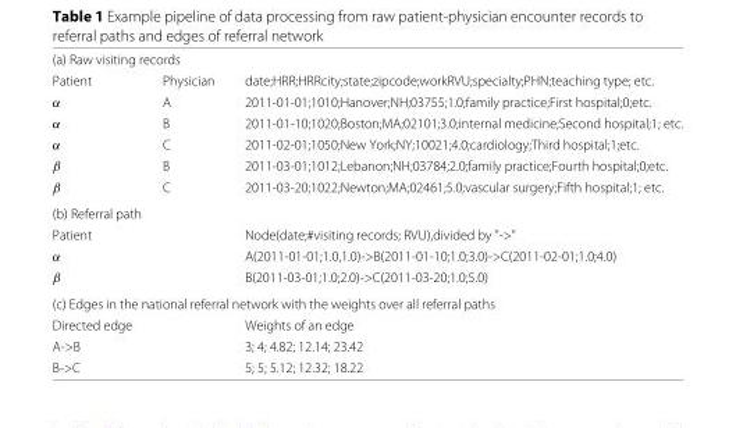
<table><tbody><tr><td colspan="3">(a) Raw visiting records</td></tr><tr><td>Patient</td><td>Physician</td><td>date;HRR;HRRcity;state;zipcode;workRVU;specialty;PHN;teaching type; etc.</td></tr><tr><td>α</td><td>A</td><td>2011-01-01;1010;Hanover;NH;03755;1.0;family practice;First hospital;0;etc.</td></tr><tr><td>α</td><td>B</td><td>2011-01-10;1020;Boston;MA;02101;3.0;internal medicine;Second hospital;1; etc.</td></tr><tr><td>α</td><td>C</td><td>2011-02-01;1050;New York;NY;10021;4.0;cardiology;Third hospital;1;etc.</td></tr><tr><td>β</td><td>B</td><td>2011-03-01;1012;Lebanon;NH;03784;2.0;family practice;Fourth hospital;0;etc.</td></tr><tr><td>β</td><td>C</td><td>2011-03-20;1022;Newton;MA;02461;5.0;vascular surgery;Fifth hospital;1; etc.</td></tr><tr><td colspan="3">(b) Referral path</td></tr><tr><td>Patient</td><td></td><td>Node(date;#visiting records; RVU),divided by &quot;-&gt;&quot;</td></tr><tr><td>α</td><td></td><td>A(2011-01-01;1.0,1.0)-&gt;B(2011-01-10;1.0;3.0)-&gt;C(2011-02-01;1.0;4.0)</td></tr><tr><td>β</td><td></td><td>B(2011-03-01;1.0;2.0)-&gt;C(2011-03-20;1.0;5.0)</td></tr><tr><td colspan="3">(c) Edges in the national referral network with the weights over all referral paths</td></tr><tr><td>Directed edge</td><td></td><td>Weights of an edge</td></tr><tr><td>A-&gt;B</td><td></td><td>3; 4; 4.82; 12.14; 23.42</td></tr><tr><td>B-&gt;C</td><td></td><td>5; 5; 5.12; 12.32; 18.22</td></tr></tbody></table>